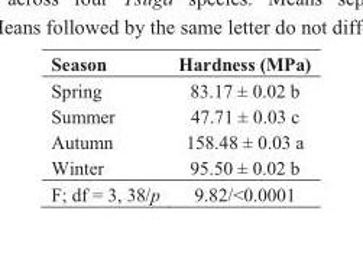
<table><thead><tr><td>Season</td><td>Hardness (MPa)</td></tr></thead><tbody><tr><td>Spring</td><td>83.17 ± 0.02 b</td></tr><tr><td>Summer</td><td>47.71 ± 0.03 c</td></tr><tr><td>Autumn</td><td>158.48 ± 0.03 a</td></tr><tr><td>Winter</td><td>95.50 ± 0.02 b</td></tr><tr><td>F; df = 3, 38/p</td><td>9.82/&lt;0.0001</td></tr></tbody></table>